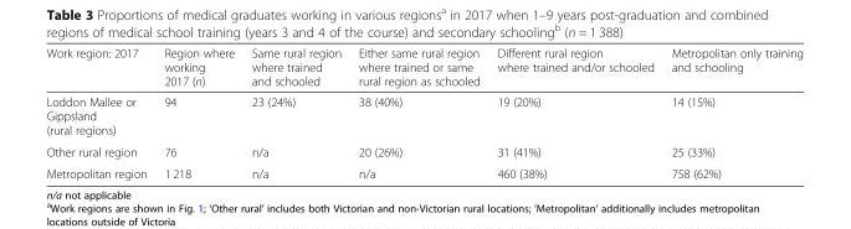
<table><thead><tr><td>Work region: 2017</td><td>Region where working 2017 (n)</td><td>Same rural region where trained and schooled</td><td>Either same rural region where trained or same rural region as schooled</td><td>Different rural region where trained and/or schooled</td><td>Metropolitan only training and schooling</td></tr></thead><tbody><tr><td>Loddon Mallee or Gippsland (rural regions)</td><td>94</td><td>23 (24%)</td><td>38 (40%)</td><td>19 (20%)</td><td>14 (15%)</td></tr><tr><td>Other rural region</td><td>76</td><td>n/a</td><td>20 (26%)</td><td>31 (41%)</td><td>25 (33%)</td></tr><tr><td>Metropolitan region</td><td>1 218</td><td>n/a</td><td>n/a</td><td>460 (38%)</td><td>758 (62%)</td></tr></tbody></table>